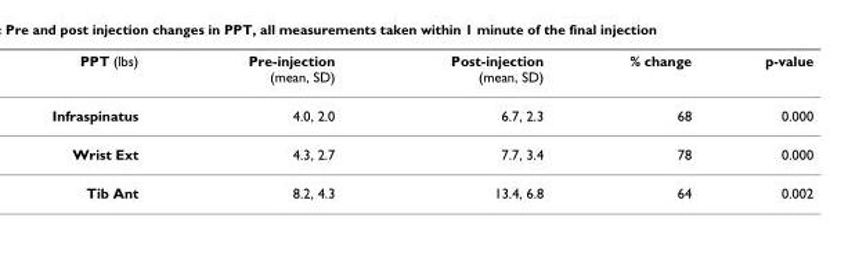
<table><thead><tr><td>PPT (lbs)</td><td>Pre-injection (mean, SD)</td><td>Post-injection (mean, SD)</td><td>% change</td><td>p-value</td></tr></thead><tbody><tr><td>Infraspinatus</td><td>4.0, 2.0</td><td>6.7, 2.3</td><td>68</td><td>0.000</td></tr><tr><td>Wrist Ext</td><td>4.3, 2.7</td><td>7.7, 3.4</td><td>78</td><td>0.000</td></tr><tr><td>Tib Ant</td><td>8.2, 4.3</td><td>13.4, 6.8</td><td>64</td><td>0.002</td></tr></tbody></table>